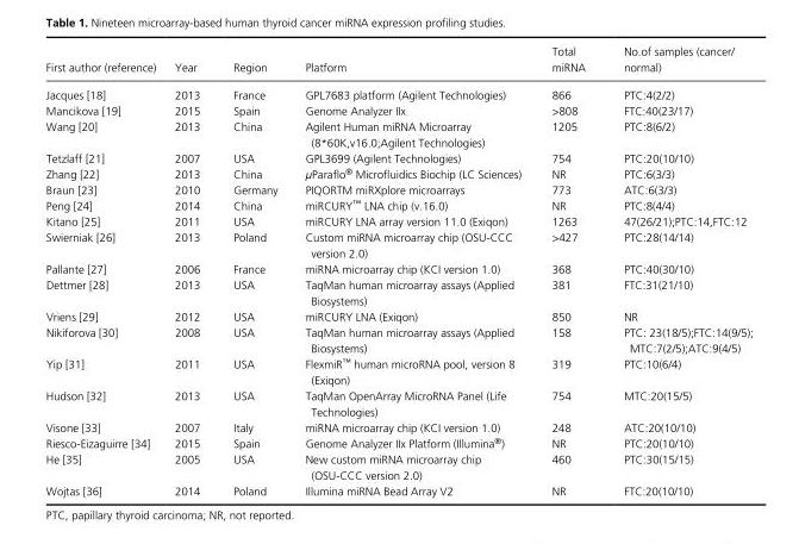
<table><thead><tr><td>First author (reference)</td><td>Year</td><td>Region</td><td>Platform</td><td>Total miRNA</td><td>No.of samples (cancer/ normal)</td></tr></thead><tbody><tr><td>Jacques [18]</td><td>2013</td><td>France</td><td>GPL7683 platform (Agilent Technologies)</td><td>866</td><td>PTC:4(2/2)</td></tr><tr><td>Mancikova [19]</td><td>2015</td><td>Spain</td><td>Genome Analyzer IIx</td><td>&gt;808</td><td>FTC:40(23/17)</td></tr><tr><td>Wang [20]</td><td>2013</td><td>China</td><td>Agilent Human miRNA Microarray (8*60K,v16.0;Agilent Technologies)</td><td>1205</td><td>PTC:8(6/2)</td></tr><tr><td>Tetzlaff [21]</td><td>2007</td><td>USA</td><td>GPL3699 (Agilent Technologies)</td><td>754</td><td>PTC:20(10/10)</td></tr><tr><td>Zhang [22]</td><td>2013</td><td>China</td><td>μParaflo<sup>®</sup> Microfluidics Biochip (LC Sciences)</td><td>NR</td><td>PTC:6(3/3)</td></tr><tr><td>Braun [23]</td><td>2010</td><td>Germany</td><td>PIQORTM miRXplore microarrays</td><td>773</td><td>ATC:6(3/3)</td></tr><tr><td>Peng [24]</td><td>2014</td><td>China</td><td>miRCURY<sup>™</sup> LNA chip (v.16.0)</td><td>NR</td><td>PTC:8(4/4)</td></tr><tr><td>Kitano [25]</td><td>2011</td><td>USA</td><td>miRCURY LNA array version 11.0 (Exiqon)</td><td>1263</td><td>47(26/21);PTC:14,FTC:12</td></tr><tr><td>Swierniak [26]</td><td>2013</td><td>Poland</td><td>Custom miRNA microarray chip (OSU- CCC version 2.0)</td><td>&gt;427</td><td>PTC:28(14/14)</td></tr><tr><td>Pallante [27]</td><td>2006</td><td>France</td><td>miRNA microarray chip (KCI version 1.0)</td><td>368</td><td>PTC:40(30/10)</td></tr><tr><td>Dettmer [28]</td><td>2013</td><td>USA</td><td>TaqMan human microarray assays (Applied Biosystems)</td><td>381</td><td>FTC:31(21/10)</td></tr><tr><td>Vriens [29]</td><td>2012</td><td>USA</td><td>miRCURY LNA (Exiqon)</td><td>850</td><td>NR</td></tr><tr><td>Nikiforova [30]</td><td>2008</td><td>USA</td><td>TaqMan human microarray assays (Applied Biosystems)</td><td>158</td><td>PTC: 23(18/5);FTC:14(9/5); MTC:7(2/5);ATC:9(4/5)</td></tr><tr><td>Yip [31]</td><td>2011</td><td>USA</td><td>FlexmiR<sup>™</sup> human microRNA pool, version 8 (Exiqon)</td><td>319</td><td>PTC:10(6/4)</td></tr><tr><td>Hudson [32]</td><td>2013</td><td>USA</td><td>TaqMan OpenArray MicroRNA Panel (Life Technologies)</td><td>754</td><td>MTC:20(15/5)</td></tr><tr><td>Visone [33]</td><td>2007</td><td>Italy</td><td>miRNA microarray chip (KCI version 1.0)</td><td>248</td><td>ATC:20(10/10)</td></tr><tr><td>Riesco- Eizaguirre [34]</td><td>2015</td><td>Spain</td><td>Genome Analyzer IIx Platform (Illumina<sup>®</sup>)</td><td>NR</td><td>PTC:20(10/10)</td></tr><tr><td>He [35]</td><td>2005</td><td>USA</td><td>New custom miRNA microarray chip (OSU- CCC version 2.0)</td><td>460</td><td>PTC:30(15/15)</td></tr><tr><td>Wojtas [36]</td><td>2014</td><td>Poland</td><td>Illumina miRNA Bead Array V2</td><td>NR</td><td>FTC:20(10/10)</td></tr></tbody></table>